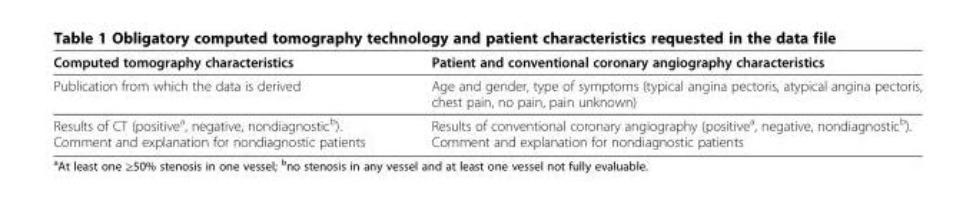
<table><thead><tr><td>Computed tomography characteristics</td><td>Patient and conventional coronary angiography characteristics</td></tr></thead><tbody><tr><td>Publication from which the data is derived</td><td>Age and gender, type of symptoms (typical angina pectoris, atypical angina pectoris, chest pain, no pain, pain unknown)</td></tr><tr><td>Results of CT (positive<sup>a</sup>, negative, nondiagnostic<sup>b</sup>). Comment and explanation for nondiagnostic patients</td><td>Results of conventional coronary angiography (positive<sup>a</sup>, negative, nondiagnostic<sup>b</sup>). Comment and explanation for nondiagnostic patients</td></tr></tbody></table>